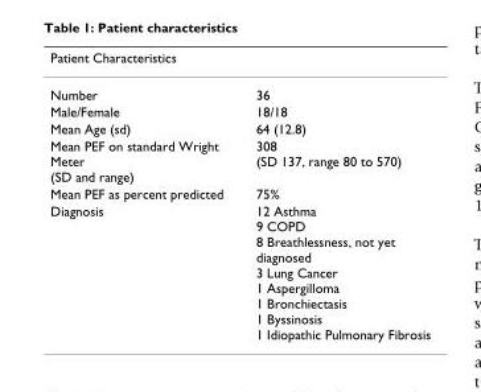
<table><thead><tr><td>Patient Characteristics</td><td></td></tr></thead><tbody><tr><td>Number</td><td>36</td></tr><tr><td>Male/Female</td><td>18/18</td></tr><tr><td>Mean Age (sd)</td><td>64 (12.8)</td></tr><tr><td>Mean PEF on standard Wright Meter (SD and range)</td><td>308 (SD 137, range 80 to 570)</td></tr><tr><td>Mean PEF as percent predicted</td><td>75%</td></tr><tr><td>Diagnosis</td><td>12 Asthma 9 COPD 8 Breathlessness, not yet diagnosed 3 Lung Cancer 1 Aspergilloma 1 Bronchiectasis 1 Byssinosis 1 Idiopathic Pulmonary Fibrosis</td></tr></tbody></table>